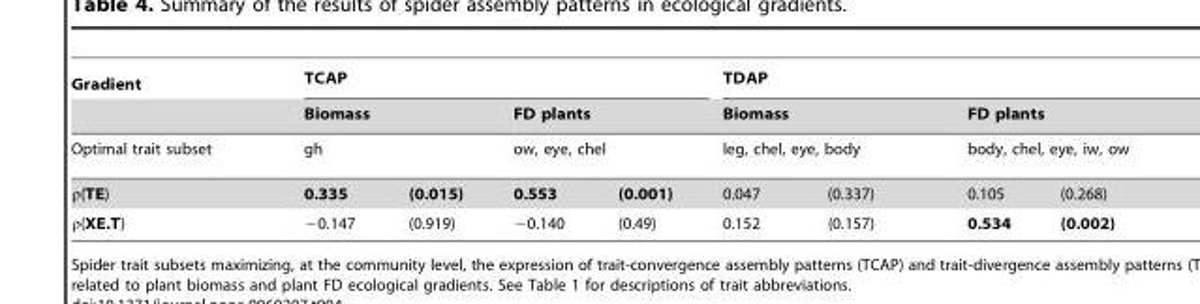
<table><thead><tr><td rowspan="4">Gradient Optimal trait subset ρ(TE)</td><td colspan="4">TCAP</td><td colspan="4">TDAP</td></tr><tr><td rowspan="2" colspan="2">Biomass gh</td><td rowspan="2" colspan="2">FD plants ow, eye, chel</td><td rowspan="2" colspan="2">Biomass leg, chel, eye, body</td><td rowspan="2" colspan="2">FD plants body, chel, eye, iw, ow</td></tr><tr></tr><tr><td>0.335</td><td>(0.015)</td><td>0.553</td><td>(0.001)</td><td>0.047</td><td>(0.337)</td><td>0.105</td><td>(0.268)</td></tr></thead><tbody><tr><td>ρ(XE.T)</td><td>−0.147</td><td>(0.919)</td><td>−0.140</td><td>(0.49)</td><td>0.152</td><td>(0.157)</td><td>0.534</td><td>(0.002)</td></tr></tbody></table>